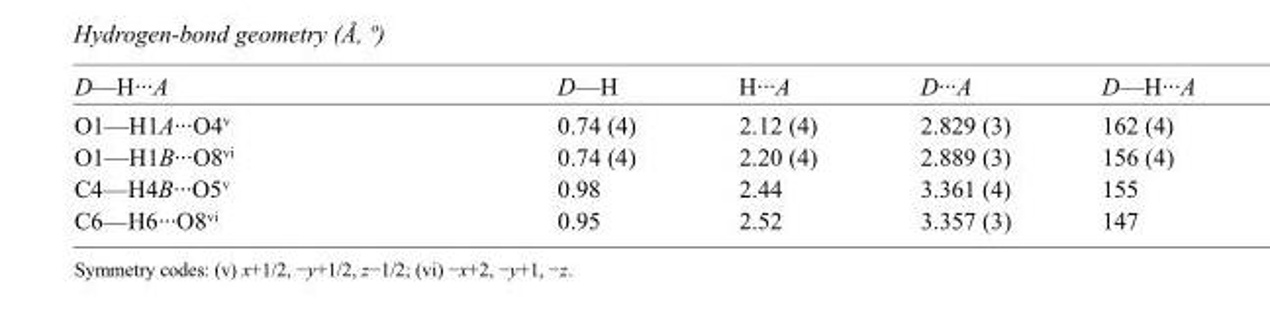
<table><tbody><tr><td>D—H···A</td><td>D—H</td><td>H···A</td><td>D···A</td><td>D—H···A</td></tr><tr><td>O1—H1A···O4<sup>v</sup></td><td>0.74 (4)</td><td>2.12 (4)</td><td>2.829 (3)</td><td>162 (4)</td></tr><tr><td>O1—H1B···O8<sup>vi</sup></td><td>0.74 (4)</td><td>2.20 (4)</td><td>2.889 (3)</td><td>156 (4)</td></tr><tr><td>C4—H4B···O5<sup>v</sup></td><td>0.98</td><td>2.44</td><td>3.361 (4)</td><td>155</td></tr><tr><td>C6—H6···O8<sup>vi</sup></td><td>0.95</td><td>2.52</td><td>3.357 (3)</td><td>147</td></tr></tbody></table>